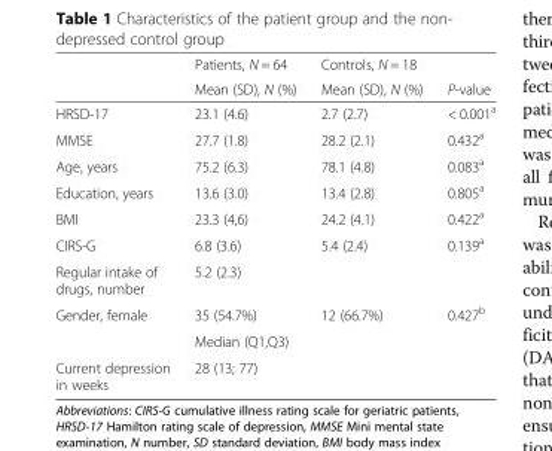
<table><thead><tr><td rowspan="2"></td><td rowspan="2">Patients, N = 64 Mean (SD), N (%)</td><td rowspan="2">Controls, N = 18 Mean (SD), N (%)</td><td rowspan="2">P-value</td></tr><tr></tr></thead><tbody><tr><td>HRSD-17</td><td>23.1 (4.6)</td><td>2.7 (2.7)</td><td>&lt; 0.001<sup>a</sup></td></tr><tr><td>MMSE</td><td>27.7 (1.8)</td><td>28.2 (2.1)</td><td>0.432<sup>a</sup></td></tr><tr><td>Age, years</td><td>75.2 (6.3)</td><td>78.1 (4.8)</td><td>0.083<sup>a</sup></td></tr><tr><td>Education, years</td><td>13.6 (3.0)</td><td>13.4 (2.8)</td><td>0.805<sup>a</sup></td></tr><tr><td>BMI</td><td>23.3 (4,6)</td><td>24.2 (4.1)</td><td>0.422<sup>a</sup></td></tr><tr><td>CIRS-G</td><td>6.8 (3.6)</td><td>5.4 (2.4)</td><td>0.139<sup>a</sup></td></tr><tr><td>Regular intake of drugs, number</td><td>5.2 (2.3)</td><td></td><td></td></tr><tr><td rowspan="2">Gender, female</td><td>35 (54.7%)</td><td>12 (66.7%)</td><td>0.427<sup>b</sup></td></tr><tr><td>Median (Q1,Q3)</td><td></td><td></td></tr><tr><td>Current depression in weeks</td><td>28 (13; 77)</td><td></td><td></td></tr></tbody></table>